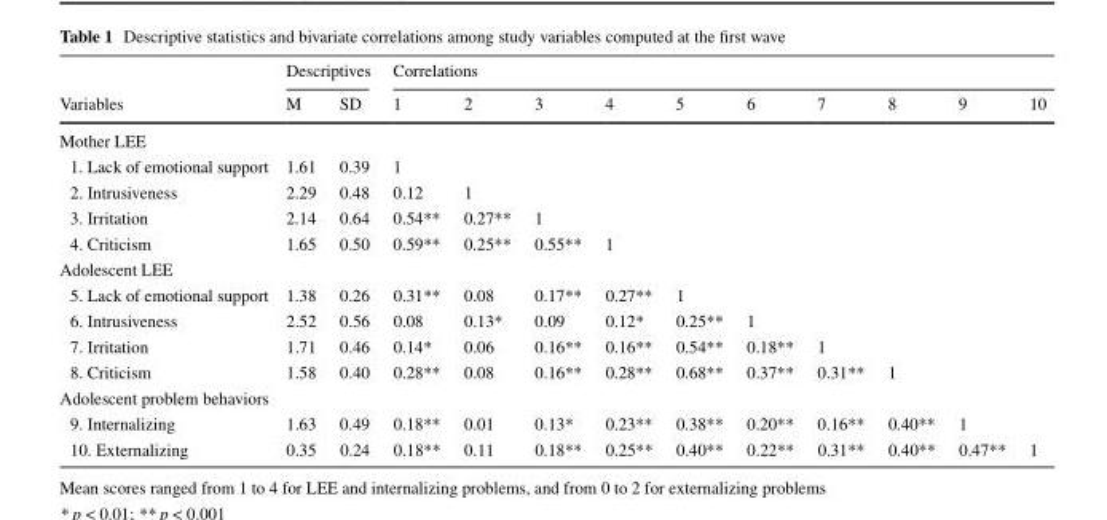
<table><thead><tr><td rowspan="2">Variables</td><td colspan="2">Descriptives</td><td colspan="10">Correlations</td></tr><tr><td>M</td><td>SD</td><td>1</td><td>2</td><td>3</td><td>4</td><td>5</td><td>6</td><td>7</td><td>8</td><td>9</td><td>10</td></tr></thead><tbody><tr><td colspan="13">Mother LEE</td></tr><tr><td>1. Lack of emotional support</td><td>1.61</td><td>0.39</td><td>1</td><td></td><td></td><td></td><td></td><td></td><td></td><td></td><td></td><td></td></tr><tr><td>2. Intrusiveness</td><td>2.29</td><td>0.48</td><td>0.12</td><td>1</td><td></td><td></td><td></td><td></td><td></td><td></td><td></td><td></td></tr><tr><td>3. Irritation</td><td>2.14</td><td>0.64</td><td>0.54**</td><td>0.27**</td><td>1</td><td></td><td></td><td></td><td></td><td></td><td></td><td></td></tr><tr><td>4. Criticism</td><td>1.65</td><td>0.50</td><td>0.59**</td><td>0.25**</td><td>0.55**</td><td>1</td><td></td><td></td><td></td><td></td><td></td><td></td></tr><tr><td colspan="13">Adolescent LEE</td></tr><tr><td>5. Lack of emotional support</td><td>1.38</td><td>0.26</td><td>0.31**</td><td>0.08</td><td>0.17**</td><td>0.27**</td><td>1</td><td></td><td></td><td></td><td></td><td></td></tr><tr><td>6. Intrusiveness</td><td>2.52</td><td>0.56</td><td>0.08</td><td>0.13*</td><td>0.09</td><td>0.12*</td><td>0.25**</td><td>1</td><td></td><td></td><td></td><td></td></tr><tr><td>7. Irritation</td><td>1.71</td><td>0.46</td><td>0.14*</td><td>0.06</td><td>0.16**</td><td>0.16**</td><td>0.54**</td><td>0.18**</td><td>1</td><td></td><td></td><td></td></tr><tr><td>8. Criticism</td><td>1.58</td><td>0.40</td><td>0.28**</td><td>0.08</td><td>0.16**</td><td>0.28**</td><td>0.68**</td><td>0.37**</td><td>0.31**</td><td>1</td><td></td><td></td></tr><tr><td colspan="13">Adolescent problem behaviors</td></tr><tr><td>9. Internalizing</td><td>1.63</td><td>0.49</td><td>0.18**</td><td>0.01</td><td>0.13*</td><td>0.23**</td><td>0.38**</td><td>0.20**</td><td>0.16**</td><td>0.40**</td><td>1</td><td></td></tr><tr><td>10. Externalizing</td><td>0.35</td><td>0.24</td><td>0.18**</td><td>0.11</td><td>0.18**</td><td>0.25**</td><td>0.40**</td><td>0.22**</td><td>0.31**</td><td>0.40**</td><td>0.47**</td><td>1</td></tr></tbody></table>